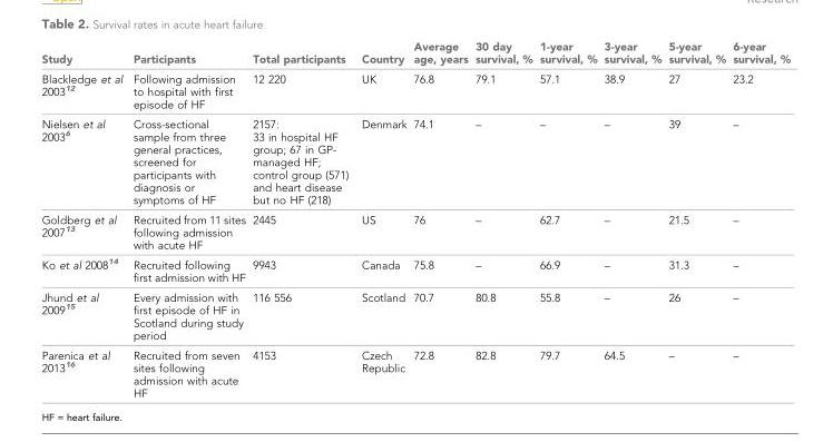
<table><thead><tr><td>Study</td><td>Participants</td><td>Total participants</td><td>Country</td><td>Average age, years</td><td>30 day survival, %</td><td>1-year survival, %</td><td>3-year survival, %</td><td>5-year survival, %</td><td>6-year survival, %</td></tr></thead><tbody><tr><td>Blackledge et al 2003<sup>12</sup></td><td>Following admission to hospital with first episode of HF</td><td>12 220</td><td>UK</td><td>76.8</td><td>79.1</td><td>57.1</td><td>38.9</td><td>27</td><td>23.2</td></tr><tr><td>Nielsen et al 2003<sup>6</sup></td><td>Cross-sectional sample from three general practices, screened for participants with diagnosis or symptoms of HF</td><td>2157: 33 in hospital HF group; 67 in GP- managed HF; control group (571) and heart disease but no HF (218)</td><td>Denmark</td><td>74.1</td><td>–</td><td>–</td><td>–</td><td>39</td><td>–</td></tr><tr><td>Goldberg et al 2007<sup>13</sup></td><td>Recruited from 11 sites following admission with acute HF</td><td>2445</td><td>US</td><td>76</td><td>–</td><td>62.7</td><td>–</td><td>21.5</td><td>–</td></tr><tr><td>Ko et al 2008<sup>14</sup></td><td>Recruited following first admission with HF</td><td>9943</td><td>Canada</td><td>75.8</td><td>–</td><td>66.9</td><td>–</td><td>31.3</td><td>–</td></tr><tr><td>Jhund et al 2009<sup>15</sup></td><td>Every admission with first episode of HF in Scotland during study period</td><td>116 556</td><td>Scotland</td><td>70.7</td><td>80.8</td><td>55.8</td><td>–</td><td>26</td><td>–</td></tr><tr><td>Parenica et al 2013<sup>16</sup></td><td>Recruited from seven sites following admission with acute HF</td><td>4153</td><td>Czech Republic</td><td>72.8</td><td>82.8</td><td>79.7</td><td>64.5</td><td>–</td><td>–</td></tr></tbody></table>